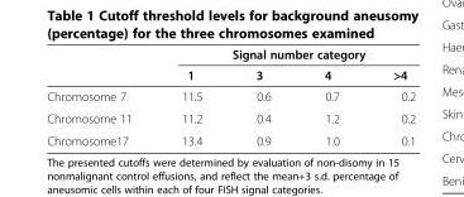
<table><thead><tr><td rowspan="2"></td><td colspan="4">Signal number category</td></tr><tr><td>1</td><td>3</td><td>4</td><td>&gt;4</td></tr></thead><tbody><tr><td>Chromosome 7</td><td>11.5</td><td>0.6</td><td>0.7</td><td>0.2</td></tr><tr><td>Chromosome 11</td><td>11.2</td><td>0.4</td><td>1.2</td><td>0.2</td></tr><tr><td>Chromosome17</td><td>13.4</td><td>0.9</td><td>1.0</td><td>0.1</td></tr></tbody></table>